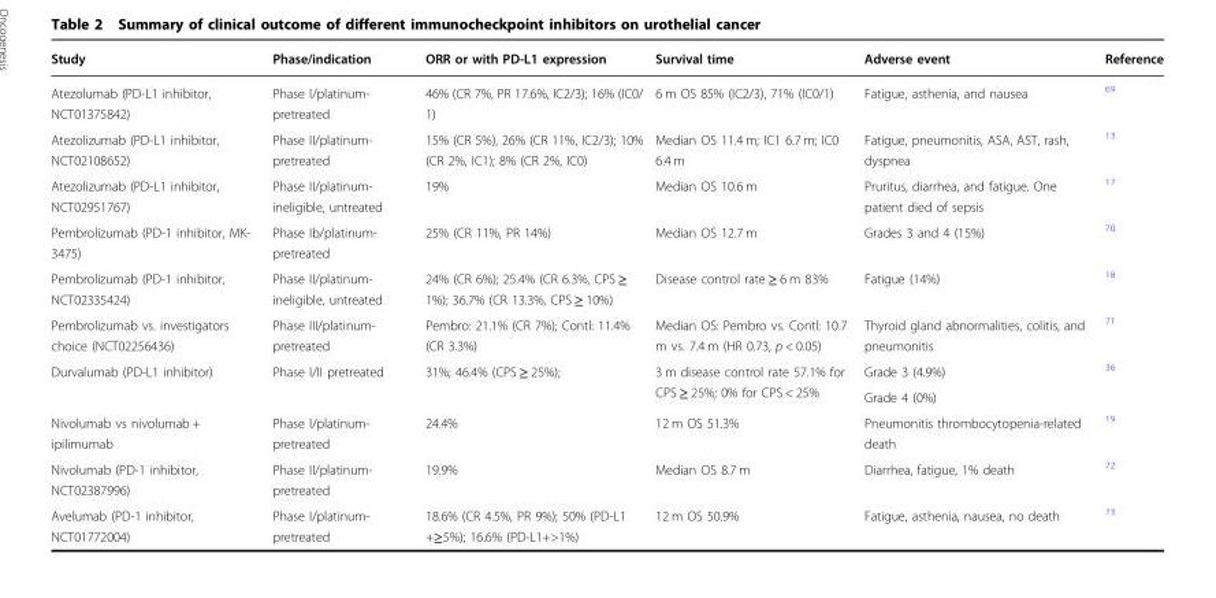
<table><thead><tr><td>Study</td><td>Phase/indication</td><td>ORR or with PD-L1 expression</td><td>Survival time</td><td>Adverse event</td><td>Reference</td></tr></thead><tbody><tr><td>Atezolumab (PD-L1 inhibitor, NCT01375842)</td><td>Phase I/platinum- pretreated</td><td>46% (CR 7%, PR 17.6%, IC2/3); 16% (IC0/ 1)</td><td>6 m OS 85% (IC2/3), 71% (IC0/1)</td><td>Fatigue, asthenia, and nausea</td><td><sup>69</sup></td></tr><tr><td>Atezolizumab (PD-L1 inhibitor, NCT02108652)</td><td>Phase II/platinum- pretreated</td><td>15% (CR 5%), 26% (CR 11%, IC2/3); 10% (CR 2%, IC1); 8% (CR 2%, IC0)</td><td>Median OS 11.4 m; IC1 6.7 m; IC0 6.4 m</td><td>Fatigue, pneumonitis, ASA, AST, rash, dyspnea</td><td><sup>13</sup></td></tr><tr><td>Atezolizumab (PD-L1 inhibitor, NCT02951767)</td><td>Phase II/platinum- ineligible, untreated</td><td>19%</td><td>Median OS 10.6 m</td><td>Pruritus, diarrhea, and fatigue. One patient died of sepsis</td><td><sup>17</sup></td></tr><tr><td>Pembrolizumab (PD-1 inhibitor, MK- 3475)</td><td>Phase Ib/platinum- pretreated</td><td>25% (CR 11%, PR 14%)</td><td>Median OS 12.7 m</td><td>Grades 3 and 4 (15%)</td><td><sup>70</sup></td></tr><tr><td>Pembrolizumab (PD-1 inhibitor, NCT02335424)</td><td>Phase II/platinum- ineligible, untreated</td><td>24% (CR 6%); 25.4% (CR 6.3%, CPS ≥ 1%); 36.7% (CR 13.3%, CPS ≥ 10%)</td><td>Disease control rate ≥ 6 m 83%</td><td>Fatigue (14%)</td><td><sup>18</sup></td></tr><tr><td>Pembrolizumab vs. investigators choice (NCT02256436)</td><td>Phase III/platinum- pretreated</td><td>Pembro: 21.1% (CR 7%); Contl: 11.4% (CR 3.3%)</td><td>Median OS: Pembro vs. Contl: 10.7 m vs. 7.4 m (HR 0.73, p &lt; 0.05)</td><td>Thyroid gland abnormalities, colitis, and pneumonitis</td><td><sup>71</sup></td></tr><tr><td rowspan="2">Durvalumab (PD-L1 inhibitor)</td><td rowspan="2">Phase I/II pretreated</td><td rowspan="2">31%; 46.4% (CPS ≥ 25%);</td><td rowspan="2">3 m disease control rate 57.1% for CPS ≥ 25%; 0% for CPS &lt; 25%</td><td>Grade 3 (4.9%)</td><td rowspan="2"><sup>36</sup></td></tr><tr><td>Grade 4 (0%)</td></tr><tr><td>Nivolumab vs nivolumab + ipilimumab</td><td>Phase I/platinum- pretreated</td><td>24.4%</td><td>12 m OS 51.3%</td><td>Pneumonitis thrombocytopenia-related death</td><td><sup>19</sup></td></tr><tr><td>Nivolumab (PD-1 inhibitor, NCT02387996)</td><td>Phase II/platinum- pretreated</td><td>19.9%</td><td>Median OS 8.7 m</td><td>Diarrhea, fatigue, 1% death</td><td><sup>72</sup></td></tr><tr><td>Avelumab (PD-1 inhibitor, NCT01772004)</td><td>Phase I/platinum- pretreated</td><td>18.6% (CR 4.5%, PR 9%); 50% (PD-L1 +≥5%); 16.6% (PD-L1+&gt;1%)</td><td>12 m OS 50.9%</td><td>Fatigue, asthenia, nausea, no death</td><td><sup>73</sup></td></tr></tbody></table>